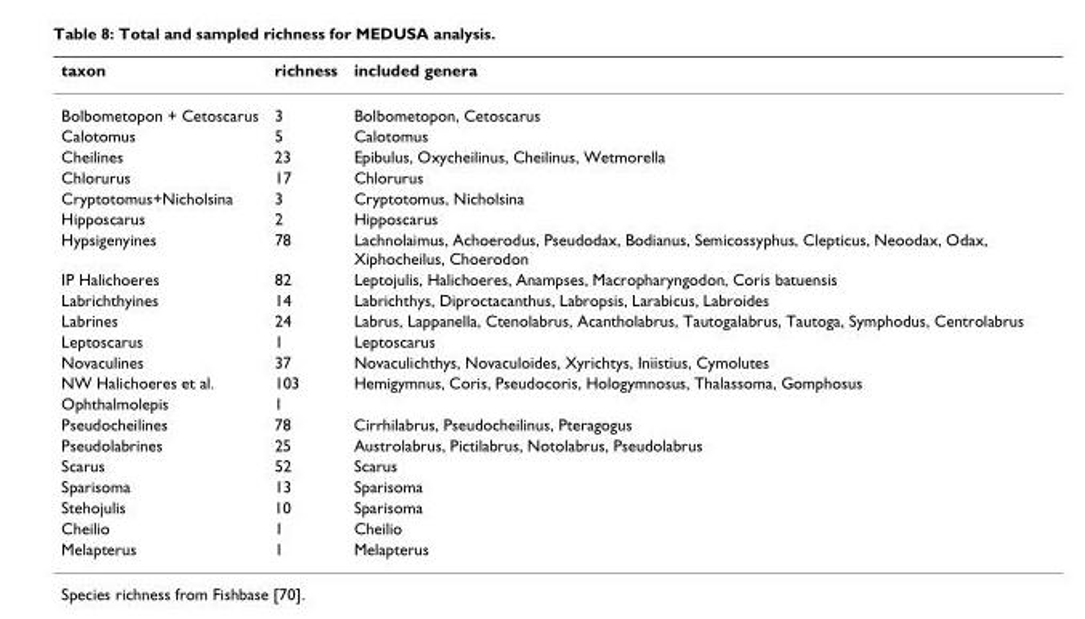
<table><thead><tr><td>taxon</td><td>richness</td><td>included genera</td></tr></thead><tbody><tr><td>Bolbometopon + Cetoscarus</td><td>3</td><td>Bolbometopon, Cetoscarus</td></tr><tr><td>Calotomus</td><td>5</td><td>Calotomus</td></tr><tr><td>Cheilines</td><td>23</td><td>Epibulus, Oxycheilinus, Cheilinus, Wetmorella</td></tr><tr><td>Chlorurus</td><td>17</td><td>Chlorurus</td></tr><tr><td>Cryptotomus+Nicholsina</td><td>3</td><td>Cryptotomus, Nicholsina</td></tr><tr><td>Hipposcarus</td><td>2</td><td>Hipposcarus</td></tr><tr><td>Hypsigenyines</td><td>78</td><td>Lachnolaimus, Achoerodus, Pseudodax, Bodianus, Semicossyphus, Clepticus, Neoodax, Odax, Xiphocheilus, Choerodon</td></tr><tr><td>IP Halichoeres</td><td>82</td><td>Leptojulis, Halichoeres, Anampses, Macropharyngodon, Coris batuensis</td></tr><tr><td>Labrichthyines</td><td>14</td><td>Labrichthys, Diproctacanthus, Labropsis, Larabicus, Labroides</td></tr><tr><td>Labrines</td><td>24</td><td>Labrus, Lappanella, Ctenolabrus, Acantholabrus, Tautogalabrus, Tautoga, Symphodus, Centrolabrus</td></tr><tr><td>Leptoscarus</td><td>1</td><td>Leptoscarus</td></tr><tr><td>Novaculines</td><td>37</td><td>Novaculichthys, Novaculoides, Xyrichtys, Iniistius, Cymolutes</td></tr><tr><td>NW Halichoeres et al.</td><td>103</td><td>Hemigymnus, Coris, Pseudocoris, Hologymnosus, Thalassoma, Gomphosus</td></tr><tr><td>Ophthalmolepis</td><td>1</td><td></td></tr><tr><td>Pseudocheilines</td><td>78</td><td>Cirrhilabrus, Pseudocheilinus, Pteragogus</td></tr><tr><td>Pseudolabrines</td><td>25</td><td>Austrolabrus, Pictilabrus, Notolabrus, Pseudolabrus</td></tr><tr><td>Scarus</td><td>52</td><td>Scarus</td></tr><tr><td>Sparisoma</td><td>13</td><td>Sparisoma</td></tr><tr><td>Stehojulis</td><td>10</td><td>Sparisoma</td></tr><tr><td>Cheilio</td><td>1</td><td>Cheilio</td></tr><tr><td>Melapterus</td><td>1</td><td>Melapterus</td></tr></tbody></table>